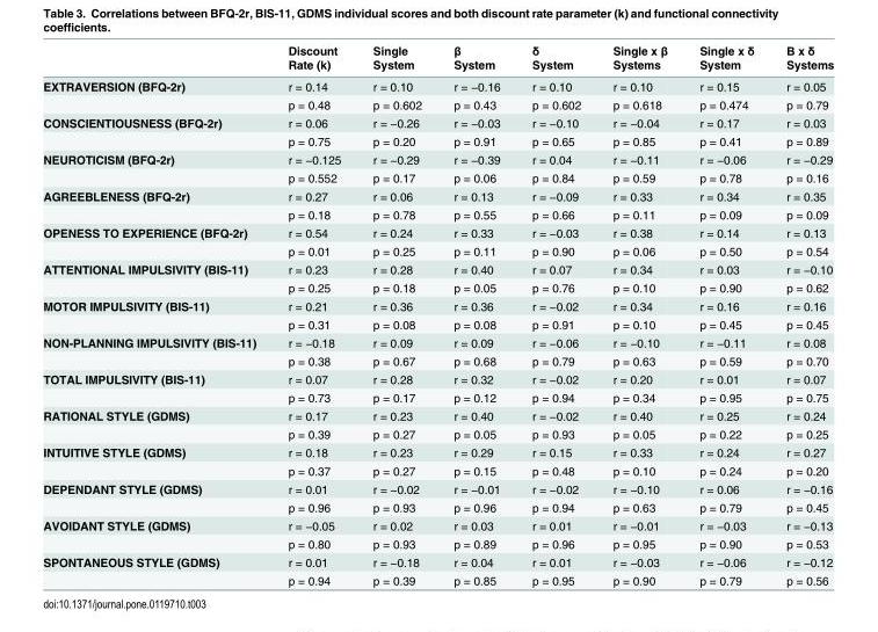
<table><thead><tr><td rowspan="2"></td><td rowspan="2">Discount Rate (k)</td><td rowspan="2">Single System</td><td rowspan="2">β System</td><td rowspan="2">δ System</td><td rowspan="2">Single x β Systems</td><td rowspan="2">Single x δ System</td><td rowspan="2">Β x δ Systems</td></tr><tr></tr></thead><tbody><tr><td rowspan="2">EXTRAVERSION (BFQ-2r)</td><td>r = 0.14</td><td>r = 0.10</td><td>r = −0.16</td><td>r = 0.10</td><td>r = 0.10</td><td>r = 0.15</td><td>r = 0.05</td></tr><tr><td>p = 0.48</td><td>p = 0.602</td><td>p = 0.43</td><td>p = 0.602</td><td>p = 0.618</td><td>p = 0.474</td><td>p = 0.79</td></tr><tr><td rowspan="2">CONSCIENTIOUSNESS (BFQ-2r)</td><td>r = 0.06</td><td>r = −0.26</td><td>r = −0.03</td><td>r = −0.10</td><td>r = −0.04</td><td>r = 0.17</td><td>r = 0.03</td></tr><tr><td>p = 0.75</td><td>p = 0.20</td><td>p = 0.91</td><td>p = 0.65</td><td>p = 0.85</td><td>p = 0.41</td><td>p = 0.89</td></tr><tr><td rowspan="2">NEUROTICISM (BFQ-2r)</td><td>r = −0.125</td><td>r = −0.29</td><td>r = −0.39</td><td>r = 0.04</td><td>r = −0.11</td><td>r = −0.06</td><td>r = −0.29</td></tr><tr><td>p = 0.552</td><td>p = 0.17</td><td>p = 0.06</td><td>p = 0.84</td><td>p = 0.59</td><td>p = 0.78</td><td>p = 0.16</td></tr><tr><td rowspan="2">AGREEBLENESS (BFQ-2r)</td><td>r = 0.27</td><td>r = 0.06</td><td>r = 0.13</td><td>r = −0.09</td><td>r = 0.33</td><td>r = 0.34</td><td>r = 0.35</td></tr><tr><td>p = 0.18</td><td>p = 0.78</td><td>p = 0.55</td><td>p = 0.66</td><td>p = 0.11</td><td>p = 0.09</td><td>p = 0.09</td></tr><tr><td rowspan="2">OPENESS TO EXPERIENCE (BFQ-2r)</td><td>r = 0.54</td><td>r = 0.24</td><td>r = 0.33</td><td>r = −0.03</td><td>r = 0.38</td><td>r = 0.14</td><td>r = 0.13</td></tr><tr><td>p = 0.01</td><td>p = 0.25</td><td>p = 0.11</td><td>p = 0.90</td><td>p = 0.06</td><td>p = 0.50</td><td>p = 0.54</td></tr><tr><td rowspan="2">ATTENTIONAL IMPULSIVITY (BIS-11)</td><td>r = 0.23</td><td>r = 0.28</td><td>r = 0.40</td><td>r = 0.07</td><td>r = 0.34</td><td>r = 0.03</td><td>r = −0.10</td></tr><tr><td>p = 0.25</td><td>p = 0.18</td><td>p = 0.05</td><td>p = 0.76</td><td>p = 0.10</td><td>p = 0.90</td><td>p = 0.62</td></tr><tr><td rowspan="2">MOTOR IMPULSIVITY (BIS-11)</td><td>r = 0.21</td><td>r = 0.36</td><td>r = 0.36</td><td>r = −0.02</td><td>r = 0.34</td><td>r = 0.16</td><td>r = 0.16</td></tr><tr><td>p = 0.31</td><td>p = 0.08</td><td>p = 0.08</td><td>p = 0.91</td><td>p = 0.10</td><td>p = 0.45</td><td>p = 0.45</td></tr><tr><td rowspan="2">NON-PLANNING IMPULSIVITY (BIS-11)</td><td>r = −0.18</td><td>r = 0.09</td><td>r = 0.09</td><td>r = −0.06</td><td>r = −0.10</td><td>r = −0.11</td><td>r = 0.08</td></tr><tr><td>p = 0.38</td><td>p = 0.67</td><td>p = 0.68</td><td>p = 0.79</td><td>p = 0.63</td><td>p = 0.59</td><td>p = 0.70</td></tr><tr><td rowspan="2">TOTAL IMPULSIVITY (BIS-11)</td><td>r = 0.07</td><td>r = 0.28</td><td>r = 0.32</td><td>r = −0.02</td><td>r = 0.20</td><td>r = 0.01</td><td>r = 0.07</td></tr><tr><td>p = 0.73</td><td>p = 0.17</td><td>p = 0.12</td><td>p = 0.94</td><td>p = 0.34</td><td>p = 0.95</td><td>p = 0.75</td></tr><tr><td rowspan="2">RATIONAL STYLE (GDMS)</td><td>r = 0.17</td><td>r = 0.23</td><td>r = 0.40</td><td>r = −0.02</td><td>r = 0.40</td><td>r = 0.25</td><td>r = 0.24</td></tr><tr><td>p = 0.39</td><td>p = 0.27</td><td>p = 0.05</td><td>p = 0.93</td><td>p = 0.05</td><td>p = 0.22</td><td>p = 0.25</td></tr><tr><td rowspan="2">INTUITIVE STYLE (GDMS)</td><td>r = 0.18</td><td>r = 0.23</td><td>r = 0.29</td><td>r = 0.15</td><td>r = 0.33</td><td>r = 0.24</td><td>r = 0.27</td></tr><tr><td>p = 0.37</td><td>p = 0.27</td><td>p = 0.15</td><td>p = 0.48</td><td>p = 0.10</td><td>p = 0.24</td><td>p = 0.20</td></tr><tr><td rowspan="2">DEPENDANT STYLE (GDMS)</td><td>r = 0.01</td><td>r = −0.02</td><td>r = −0.01</td><td>r = −0.02</td><td>r = −0.10</td><td>r = 0.06</td><td>r = −0.16</td></tr><tr><td>p = 0.96</td><td>p = 0.93</td><td>p = 0.96</td><td>p = 0.94</td><td>p = 0.63</td><td>p = 0.79</td><td>p = 0.45</td></tr><tr><td rowspan="2">AVOIDANT STYLE (GDMS)</td><td>r = −0.05</td><td>r = 0.02</td><td>r = 0.03</td><td>r = 0.01</td><td>r = −0.01</td><td>r = −0.03</td><td>r = −0.13</td></tr><tr><td>p = 0.80</td><td>p = 0.93</td><td>p = 0.89</td><td>p = 0.96</td><td>p = 0.95</td><td>p = 0.90</td><td>p = 0.53</td></tr><tr><td rowspan="2">SPONTANEOUS STYLE (GDMS)</td><td>r = 0.01</td><td>r = −0.18</td><td>r = 0.04</td><td>r = 0.01</td><td>r = −0.03</td><td>r = −0.06</td><td>r = −0.12</td></tr><tr><td>p = 0.94</td><td>p = 0.39</td><td>p = 0.85</td><td>p = 0.95</td><td>p = 0.90</td><td>p = 0.79</td><td>p = 0.56</td></tr></tbody></table>